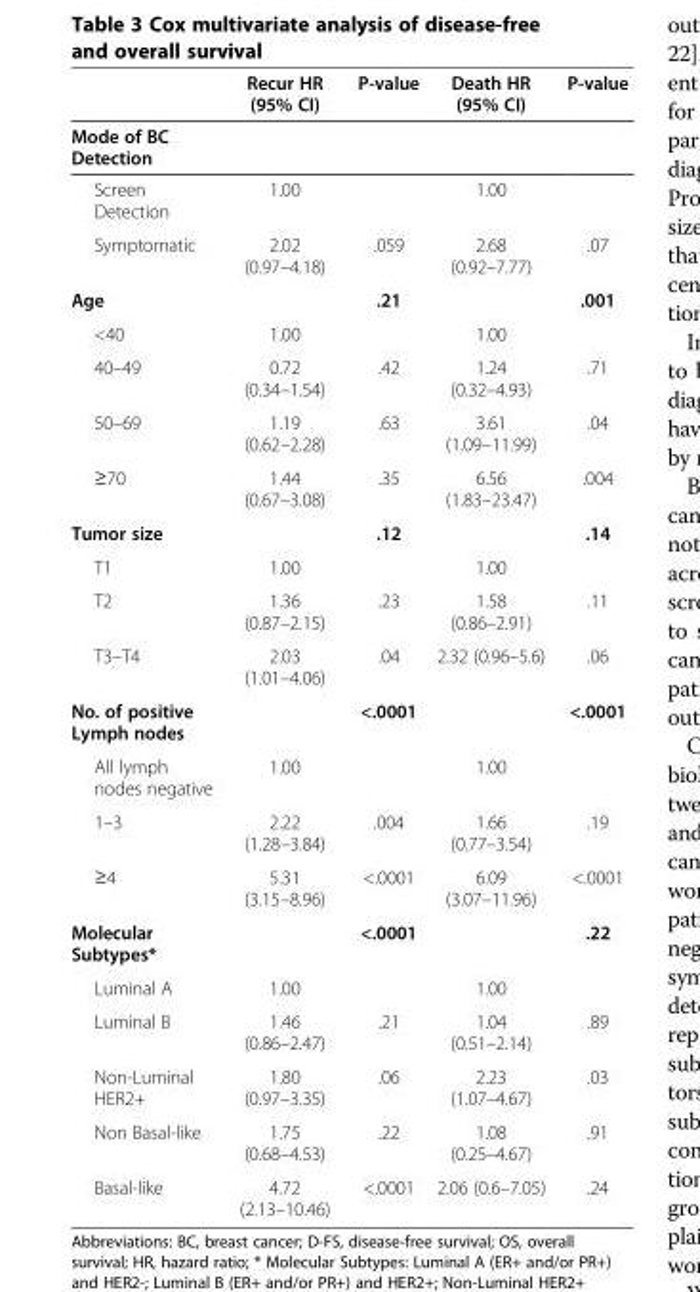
<table><thead><tr><td rowspan="2">Mode of BC Detection</td><td rowspan="2">Recur HR (95% CI)</td><td rowspan="2">P-value</td><td rowspan="2">Death HR (95% CI)</td><td rowspan="2">P-value</td></tr><tr></tr></thead><tbody><tr><td>Screen Detection</td><td>1.00</td><td></td><td>1.00</td><td></td></tr><tr><td>Symptomatic</td><td>2.02 (0.97–4.18)</td><td>.059</td><td>2.68 (0.92–7.77)</td><td>.07</td></tr><tr><td>Age</td><td></td><td>.21</td><td></td><td>.001</td></tr><tr><td>&lt;40</td><td>1.00</td><td></td><td>1.00</td><td></td></tr><tr><td>40–49</td><td>0.72 (0.34–1.54)</td><td>.42</td><td>1.24 (0.32–4.93)</td><td>.71</td></tr><tr><td>50–69</td><td>1.19 (0.62–2.28)</td><td>.63</td><td>3.61 (1.09–11.99)</td><td>.04</td></tr><tr><td>≥70</td><td>1.44 (0.67–3.08)</td><td>.35</td><td>6.56 (1.83–23.47)</td><td>.004</td></tr><tr><td>Tumor size</td><td></td><td>.12</td><td></td><td>.14</td></tr><tr><td>T1</td><td>1.00</td><td></td><td>1.00</td><td></td></tr><tr><td>T2</td><td>1.36 (0.87–2.15)</td><td>.23</td><td>1.58 (0.86–2.91)</td><td>.11</td></tr><tr><td>T3–T4</td><td>2.03 (1.01–4.06)</td><td>.04</td><td>2.32 (0.96–5.6)</td><td>.06</td></tr><tr><td>No. of positive Lymph nodes</td><td></td><td>&lt;.0001</td><td></td><td>&lt;.0001</td></tr><tr><td>All lymph nodes negative</td><td>1.00</td><td></td><td>1.00</td><td></td></tr><tr><td>1–3</td><td>2.22 (1.28–3.84)</td><td>.004</td><td>1.66 (0.77–3.54)</td><td>.19</td></tr><tr><td>≥4</td><td>5.31 (3.15–8.96)</td><td>&lt;.0001</td><td>6.09 (3.07–11.96)</td><td>&lt;.0001</td></tr><tr><td>Molecular Subtypes*</td><td></td><td>&lt;.0001</td><td></td><td>.22</td></tr><tr><td>Luminal A</td><td>1.00</td><td></td><td>1.00</td><td></td></tr><tr><td>Luminal B</td><td>1.46 (0.86–2.47)</td><td>.21</td><td>1.04 (0.51–2.14)</td><td>.89</td></tr><tr><td>Non-Luminal HER2+</td><td>1.80 (0.97–3.35)</td><td>.06</td><td>2.23 (1.07–4.67)</td><td>.03</td></tr><tr><td>Non Basal-like</td><td>1.75 (0.68–4.53)</td><td>.22</td><td>1.08 (0.25–4.67)</td><td>.91</td></tr><tr><td>Basal-like</td><td>4.72 (2.13–10.46)</td><td>&lt;.0001</td><td>2.06 (0.6–7.05)</td><td>.24</td></tr></tbody></table>